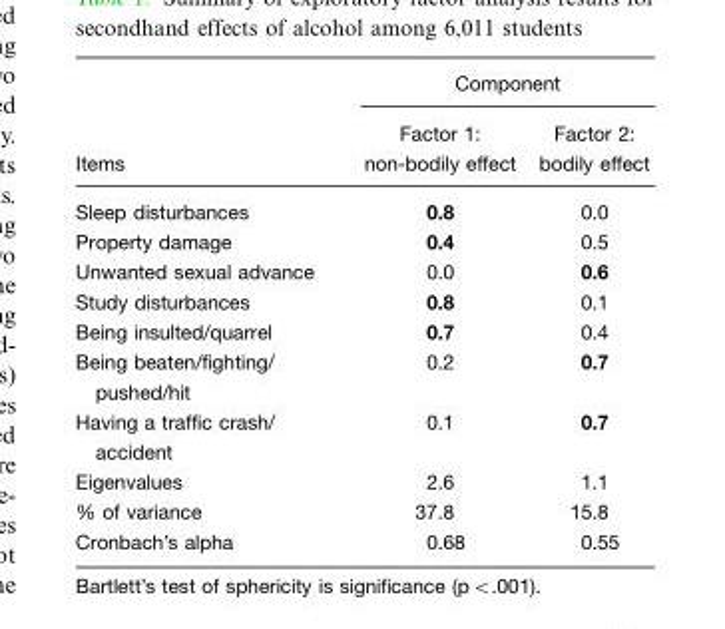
<table><thead><tr><td rowspan="2">Items</td><td colspan="2">Component</td></tr><tr><td>Factor 1: non-bodily effect</td><td>Factor 2: bodily effect</td></tr></thead><tbody><tr><td>Sleep disturbances</td><td>0.8</td><td>0.0</td></tr><tr><td>Property damage</td><td>0.4</td><td>0.5</td></tr><tr><td>Unwanted sexual advance</td><td>0.0</td><td>0.6</td></tr><tr><td>Study disturbances</td><td>0.8</td><td>0.1</td></tr><tr><td>Being insulted/quarrel</td><td>0.7</td><td>0.4</td></tr><tr><td>Being beaten/fighting/ pushed/hit</td><td>0.2</td><td>0.7</td></tr><tr><td>Having a traffic crash/ accident</td><td>0.1</td><td>0.7</td></tr><tr><td>Eigenvalues</td><td>2.6</td><td>1.1</td></tr><tr><td>% of variance</td><td>37.8</td><td>15.8</td></tr><tr><td>Cronbach’s alpha</td><td>0.68</td><td>0.55</td></tr></tbody></table>